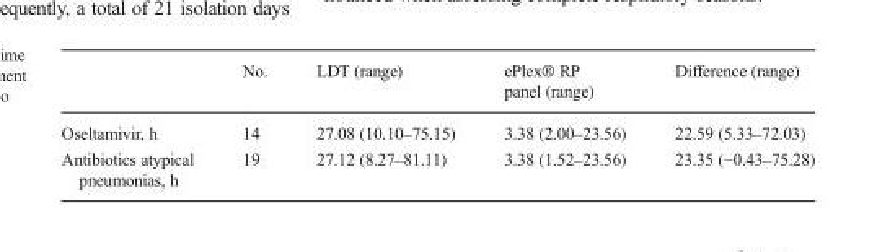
<table><thead><tr><td></td><td>No.</td><td>LDT (range)</td><td>ePlex® RP panel (range)</td><td>Difference (range)</td></tr></thead><tbody><tr><td>Oseltamivir, h</td><td>14</td><td>27.08 (10.10–75.15)</td><td>3.38 (2.00–23.56)</td><td>22.59 (5.33–72.03)</td></tr><tr><td>Antibiotics atypical pneumonias, h</td><td>19</td><td>27.12 (8.27–81.11)</td><td>3.38 (1.52–23.56)</td><td>23.35 (−0.43–75.28)</td></tr></tbody></table>